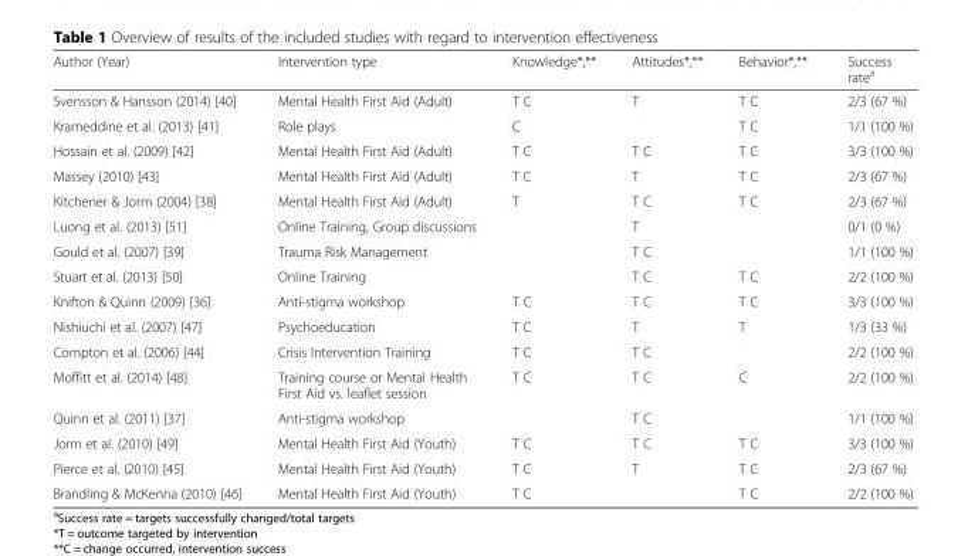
<table><thead><tr><td>Author (Year)</td><td>Intervention type</td><td>Knowledge*,**</td><td>Attitudes*,**</td><td>Behavior*,**</td><td>Success rate<sup>a</sup></td></tr></thead><tbody><tr><td>Svensson &amp; Hansson (2014) [40]</td><td>Mental Health First Aid (Adult)</td><td>T C</td><td>T</td><td>T C</td><td>2/3 (67 %)</td></tr><tr><td>Krameddine et al. (2013) [41]</td><td>Role plays</td><td>C</td><td></td><td>T C</td><td>1/1 (100 %)</td></tr><tr><td>Hossain et al. (2009) [42]</td><td>Mental Health First Aid (Adult)</td><td>T C</td><td>T C</td><td>T C</td><td>3/3 (100 %)</td></tr><tr><td>Massey (2010) [43]</td><td>Mental Health First Aid (Adult)</td><td>T C</td><td>T</td><td>T C</td><td>2/3 (67 %)</td></tr><tr><td>Kitchener &amp; Jorm (2004) [38]</td><td>Mental Health First Aid (Adult)</td><td>T</td><td>T C</td><td>T C</td><td>2/3 (67 %)</td></tr><tr><td>Luong et al. (2013) [51]</td><td>Online Training, Group discussions</td><td></td><td>T</td><td></td><td>0/1 (0 %)</td></tr><tr><td>Gould et al. (2007) [39]</td><td>Trauma Risk Management</td><td></td><td>T C</td><td></td><td>1/1 (100 %)</td></tr><tr><td>Stuart et al. (2013) [50]</td><td>Online Training</td><td></td><td>T C</td><td>T C</td><td>2/2 (100 %)</td></tr><tr><td>Knifton &amp; Quinn (2009) [36]</td><td>Anti-stigma workshop</td><td>T C</td><td>T C</td><td>T C</td><td>3/3 (100 %)</td></tr><tr><td>Nishiuchi et al. (2007) [47]</td><td>Psychoeducation</td><td>T C</td><td>T</td><td>T</td><td>1/3 (33 %)</td></tr><tr><td>Compton et al. (2006) [44]</td><td>Crisis Intervention Training</td><td>T C</td><td>T C</td><td></td><td>2/2 (100 %)</td></tr><tr><td>Moffitt et al. (2014) [48]</td><td>Training course or Mental Health First Aid vs. leaflet session</td><td>T C</td><td>T C</td><td>C</td><td>2/2 (100 %)</td></tr><tr><td>Quinn et al. (2011) [37]</td><td>Anti-stigma workshop</td><td></td><td>T C</td><td></td><td>1/1 (100 %)</td></tr><tr><td>Jorm et al. (2010) [49]</td><td>Mental Health First Aid (Youth)</td><td>T C</td><td>T C</td><td>T C</td><td>3/3 (100 %)</td></tr><tr><td>Pierce et al. (2010) [45]</td><td>Mental Health First Aid (Youth)</td><td>T C</td><td>T</td><td>T C</td><td>2/3 (67 %)</td></tr><tr><td>Brandling &amp; McKenna (2010) [46]</td><td>Mental Health First Aid (Youth)</td><td>T C</td><td></td><td>T C</td><td>2/2 (100 %)</td></tr></tbody></table>